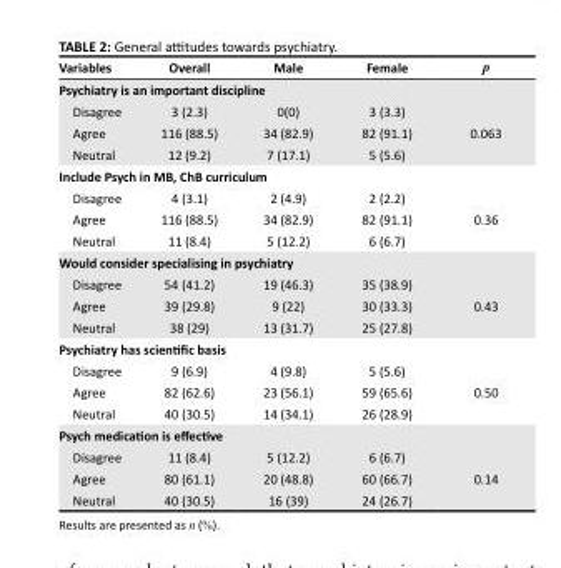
<table><thead><tr><td>Variables</td><td>Overall</td><td>Male</td><td>Female</td><td>p</td></tr></thead><tbody><tr><td colspan="5">Psychiatry is an important discipline</td></tr><tr><td>Disagree</td><td>3 (2.3)</td><td>0(0)</td><td>3 (3.3)</td><td></td></tr><tr><td>Agree</td><td>116 (88.5)</td><td>34 (82.9)</td><td>82 (91.1)</td><td>0.063</td></tr><tr><td>Neutral</td><td>12 (9.2)</td><td>7 (17.1)</td><td>5 (5.6)</td><td></td></tr><tr><td colspan="5">Include Psych in MB, ChB curriculum</td></tr><tr><td>Disagree</td><td>4 (3.1)</td><td>2 (4.9)</td><td>2 (2.2)</td><td></td></tr><tr><td>Agree</td><td>116 (88.5)</td><td>34 (82.9)</td><td>82 (91.1)</td><td>0.36</td></tr><tr><td>Neutral</td><td>11 (8.4)</td><td>5 (12.2)</td><td>6 (6.7)</td><td></td></tr><tr><td colspan="5">Would consider specialising in psychiatry</td></tr><tr><td>Disagree</td><td>54 (41.2)</td><td>19 (46.3)</td><td>35 (38.9)</td><td></td></tr><tr><td>Agree</td><td>39 (29.8)</td><td>9 (22)</td><td>30 (33.3)</td><td>0.43</td></tr><tr><td>Neutral</td><td>38 (29)</td><td>13 (31.7)</td><td>25 (27.8)</td><td></td></tr><tr><td colspan="5">Psychiatry has scientific basis</td></tr><tr><td>Disagree</td><td>9 (6.9)</td><td>4 (9.8)</td><td>5 (5.6)</td><td></td></tr><tr><td>Agree</td><td>82 (62.6)</td><td>23 (56.1)</td><td>59 (65.6)</td><td>0.50</td></tr><tr><td>Neutral</td><td>40 (30.5)</td><td>14 (34.1)</td><td>26 (28.9)</td><td></td></tr><tr><td colspan="5">Psych medication is effective</td></tr><tr><td>Disagree</td><td>11 (8.4)</td><td>5 (12.2)</td><td>6 (6.7)</td><td></td></tr><tr><td>Agree</td><td>80 (61.1)</td><td>20 (48.8)</td><td>60 (66.7)</td><td>0.14</td></tr><tr><td>Neutral</td><td>40 (30.5)</td><td>16 (39)</td><td>24 (26.7)</td><td></td></tr></tbody></table>